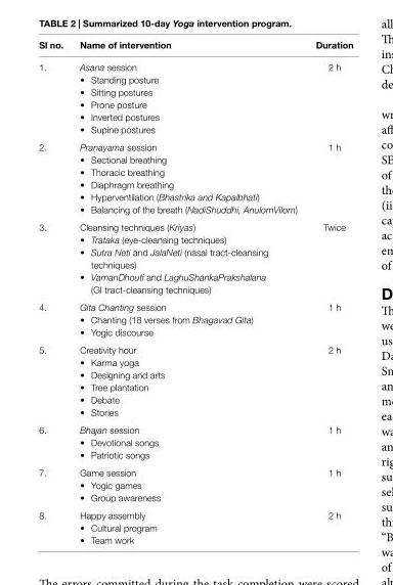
<table><thead><tr><td>sl no.</td><td>name of intervention</td><td>Duration</td></tr></thead><tbody><tr><td>1.</td><td>Asana session • Standing posture • Sitting postures • Prone posture • Inverted postures • Supine postures</td><td>2 h</td></tr><tr><td>2.</td><td>Pranayama session • Sectional breathing • Thoracic breathing • Diaphragm breathing • Hyperventilation (Bhastrika and Kapalbhati) • Balancing of the breath (NadiShuddhi, AnulomVilom)</td><td>1 h</td></tr><tr><td>3.</td><td>Cleansing techniques (Kriyas) • Trataka (eye-cleansing techniques) • Sutra Neti and JalaNeti (nasal tract-cleansing techniques) • VamanDhouti and LaghuShankaPrakshalana (GI tract-cleansing techniques)</td><td>Twice</td></tr><tr><td>4.</td><td>Gita Chanting session • Chanting (18 verses from Bhagavad Gita) • Yogic discourse</td><td>1 h</td></tr><tr><td>5.</td><td>Creativity hour • Karma yoga • Designing and arts • Tree plantation • Debate • Stories</td><td>2 h</td></tr><tr><td>6.</td><td>Bhajan session • Devotional songs • Patriotic songs</td><td>1 h</td></tr><tr><td>7.</td><td>Game session • Yogic games • Group awareness</td><td>1 h</td></tr><tr><td>8.</td><td>Happy assembly • Cultural program • Team work</td><td>2 h</td></tr></tbody></table>